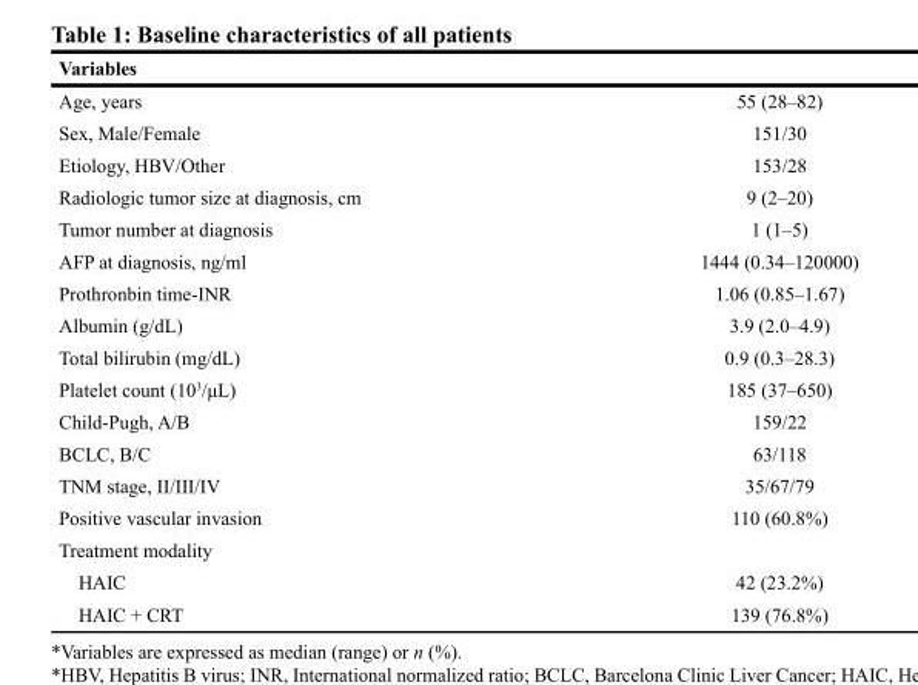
<table><thead><tr><td>Variables</td><td></td></tr></thead><tbody><tr><td>Age, years</td><td>55 (28–82)</td></tr><tr><td>Sex, Male/Female</td><td>151/30</td></tr><tr><td>Etiology, HBV/Other</td><td>153/28</td></tr><tr><td>Radiologic tumor size at diagnosis, cm</td><td>9 (2–20)</td></tr><tr><td>Tumor number at diagnosis</td><td>1 (1–5)</td></tr><tr><td>AFP at diagnosis, ng/ml</td><td>1444 (0.34–120000)</td></tr><tr><td>Prothronbin time-INR</td><td>1.06 (0.85–1.67)</td></tr><tr><td>Albumin (g/dL)</td><td>3.9 (2.0–4.9)</td></tr><tr><td>Total bilirubin (mg/dL)</td><td>0.9 (0.3–28.3)</td></tr><tr><td>Platelet count (10<sup>3</sup>/μL)</td><td>185 (37–650)</td></tr><tr><td>Child-Pugh, A/B</td><td>159/22</td></tr><tr><td>BCLC, B/C</td><td>63/118</td></tr><tr><td>TNM stage, II/III/IV</td><td>35/67/79</td></tr><tr><td>Positive vascular invasion</td><td>110 (60.8%)</td></tr><tr><td colspan="2">Treatment modality</td></tr><tr><td>HAIC</td><td>42 (23.2%)</td></tr><tr><td>HAIC + CRT</td><td>139 (76.8%)</td></tr></tbody></table>